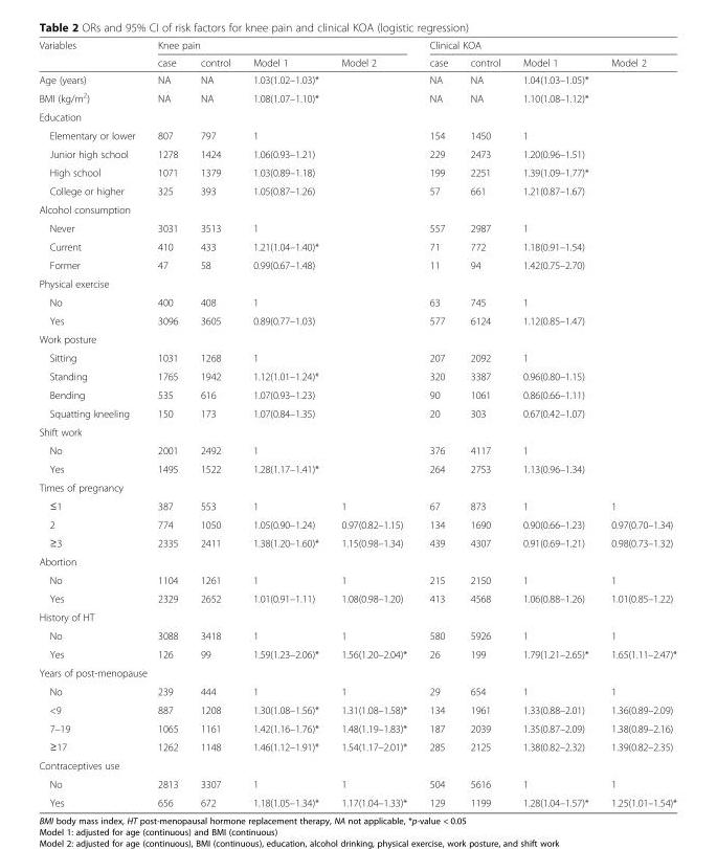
<table><thead><tr><td rowspan="2">Variables</td><td colspan="4">Knee pain</td><td colspan="4">Clinical KOA</td></tr><tr><td>case</td><td>control</td><td>Model 1</td><td>Model 2</td><td>case</td><td>control</td><td>Model 1</td><td>Model 2</td></tr></thead><tbody><tr><td>Age (years)</td><td>NA</td><td>NA</td><td>1.03(1.02–1.03)*</td><td></td><td>NA</td><td>NA</td><td>1.04(1.03–1.05)*</td><td></td></tr><tr><td>BMI (kg/m<sup>2</sup>)</td><td>NA</td><td>NA</td><td>1.08(1.07–1.10)*</td><td></td><td>NA</td><td>NA</td><td>1.10(1.08–1.12)*</td><td></td></tr><tr><td colspan="9">Education</td></tr><tr><td>Elementary or lower</td><td>807</td><td>797</td><td>1</td><td></td><td>154</td><td>1450</td><td>1</td><td></td></tr><tr><td>Junior high school</td><td>1278</td><td>1424</td><td>1.06(0.93–1.21)</td><td></td><td>229</td><td>2473</td><td>1.20(0.96–1.51)</td><td></td></tr><tr><td>High school</td><td>1071</td><td>1379</td><td>1.03(0.89–1.18)</td><td></td><td>199</td><td>2251</td><td>1.39(1.09–1.77)*</td><td></td></tr><tr><td>College or higher</td><td>325</td><td>393</td><td>1.05(0.87–1.26)</td><td></td><td>57</td><td>661</td><td>1.21(0.87–1.67)</td><td></td></tr><tr><td colspan="9">Alcohol consumption</td></tr><tr><td>Never</td><td>3031</td><td>3513</td><td>1</td><td></td><td>557</td><td>2987</td><td>1</td><td></td></tr><tr><td>Current</td><td>410</td><td>433</td><td>1.21(1.04–1.40)*</td><td></td><td>71</td><td>772</td><td>1.18(0.91–1.54)</td><td></td></tr><tr><td>Former</td><td>47</td><td>58</td><td>0.99(0.67–1.48)</td><td></td><td>11</td><td>94</td><td>1.42(0.75–2.70)</td><td></td></tr><tr><td colspan="9">Physical exercise</td></tr><tr><td>No</td><td>400</td><td>408</td><td>1</td><td></td><td>63</td><td>745</td><td>1</td><td></td></tr><tr><td>Yes</td><td>3096</td><td>3605</td><td>0.89(0.77–1.03)</td><td></td><td>577</td><td>6124</td><td>1.12(0.85–1.47)</td><td></td></tr><tr><td colspan="9">Work posture</td></tr><tr><td>Sitting</td><td>1031</td><td>1268</td><td>1</td><td></td><td>207</td><td>2092</td><td>1</td><td></td></tr><tr><td>Standing</td><td>1765</td><td>1942</td><td>1.12(1.01–1.24)*</td><td></td><td>320</td><td>3387</td><td>0.96(0.80–1.15)</td><td></td></tr><tr><td>Bending</td><td>535</td><td>616</td><td>1.07(0.93–1.23)</td><td></td><td>90</td><td>1061</td><td>0.86(0.66–1.11)</td><td></td></tr><tr><td>Squatting kneeling</td><td>150</td><td>173</td><td>1.07(0.84–1.35)</td><td></td><td>20</td><td>303</td><td>0.67(0.42–1.07)</td><td></td></tr><tr><td colspan="9">Shift work</td></tr><tr><td>No</td><td>2001</td><td>2492</td><td>1</td><td></td><td>376</td><td>4117</td><td>1</td><td></td></tr><tr><td>Yes</td><td>1495</td><td>1522</td><td>1.28(1.17–1.41)*</td><td></td><td>264</td><td>2753</td><td>1.13(0.96–1.34)</td><td></td></tr><tr><td colspan="9">Times of pregnancy</td></tr><tr><td>≤1</td><td>387</td><td>553</td><td>1</td><td>1</td><td>67</td><td>873</td><td>1</td><td>1</td></tr><tr><td>2</td><td>774</td><td>1050</td><td>1.05(0.90–1.24)</td><td>0.97(0.82–1.15)</td><td>134</td><td>1690</td><td>0.90(0.66–1.23)</td><td>0.97(0.70–1.34)</td></tr><tr><td>≥3</td><td>2335</td><td>2411</td><td>1.38(1.20–1.60)*</td><td>1.15(0.98–1.34)</td><td>439</td><td>4307</td><td>0.91(0.69–1.21)</td><td>0.98(0.73–1.32)</td></tr><tr><td colspan="9">Abortion</td></tr><tr><td>No</td><td>1104</td><td>1261</td><td>1</td><td>1</td><td>215</td><td>2150</td><td>1</td><td>1</td></tr><tr><td>Yes</td><td>2329</td><td>2652</td><td>1.01(0.91–1.11)</td><td>1.08(0.98–1.20)</td><td>413</td><td>4568</td><td>1.06(0.88–1.26)</td><td>1.01(0.85–1.22)</td></tr><tr><td colspan="9">History of HT</td></tr><tr><td>No</td><td>3088</td><td>3418</td><td>1</td><td>1</td><td>580</td><td>5926</td><td>1</td><td>1</td></tr><tr><td>Yes</td><td>126</td><td>99</td><td>1.59(1.23–2.06)*</td><td>1.56(1.20–2.04)*</td><td>26</td><td>199</td><td>1.79(1.21–2.65)*</td><td>1.65(1.11–2.47)*</td></tr><tr><td colspan="9">Years of post-menopause</td></tr><tr><td>No</td><td>239</td><td>444</td><td>1</td><td>1</td><td>29</td><td>654</td><td>1</td><td>1</td></tr><tr><td>&lt;9</td><td>887</td><td>1208</td><td>1.30(1.08–1.56)*</td><td>1.31(1.08–1.58)*</td><td>134</td><td>1961</td><td>1.33(0.88–2.01)</td><td>1.36(0.89–2.09)</td></tr><tr><td>7–19</td><td>1065</td><td>1161</td><td>1.42(1.16–1.76)*</td><td>1.48(1.19–1.83)*</td><td>187</td><td>2039</td><td>1.35(0.87–2.09)</td><td>1.38(0.89–2.16)</td></tr><tr><td>≥17</td><td>1262</td><td>1148</td><td>1.46(1.12–1.91)*</td><td>1.54(1.17–2.01)*</td><td>285</td><td>2125</td><td>1.38(0.82–2.32)</td><td>1.39(0.82–2.35)</td></tr><tr><td colspan="9">Contraceptives use</td></tr><tr><td>No</td><td>2813</td><td>3307</td><td>1</td><td>1</td><td>504</td><td>5616</td><td>1</td><td>1</td></tr><tr><td>Yes</td><td>656</td><td>672</td><td>1.18(1.05–1.34)*</td><td>1.17(1.04–1.33)*</td><td>129</td><td>1199</td><td>1.28(1.04–1.57)*</td><td>1.25(1.01–1.54)*</td></tr></tbody></table>